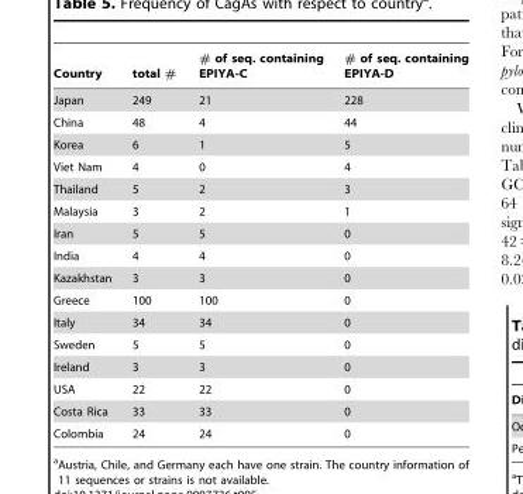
<table><thead><tr><td>Country</td><td>total #</td><td># of seq. containing EPIYA-C</td><td># of seq. containing EPIYA-D</td></tr></thead><tbody><tr><td>Japan</td><td>249</td><td>21</td><td>228</td></tr><tr><td>China</td><td>48</td><td>4</td><td>44</td></tr><tr><td>Korea</td><td>6</td><td>1</td><td>5</td></tr><tr><td>Viet Nam</td><td>4</td><td>0</td><td>4</td></tr><tr><td>Thailand</td><td>5</td><td>2</td><td>3</td></tr><tr><td>Malaysia</td><td>3</td><td>2</td><td>1</td></tr><tr><td>Iran</td><td>5</td><td>5</td><td>0</td></tr><tr><td>India</td><td>4</td><td>4</td><td>0</td></tr><tr><td>Kazakhstan</td><td>3</td><td>3</td><td>0</td></tr><tr><td>Greece</td><td>100</td><td>100</td><td>0</td></tr><tr><td>Italy</td><td>34</td><td>34</td><td>0</td></tr><tr><td>Sweden</td><td>5</td><td>5</td><td>0</td></tr><tr><td>Ireland</td><td>3</td><td>3</td><td>0</td></tr><tr><td>USA</td><td>22</td><td>22</td><td>0</td></tr><tr><td>Costa Rica</td><td>33</td><td>33</td><td>0</td></tr><tr><td>Colombia</td><td>24</td><td>24</td><td>0</td></tr></tbody></table>